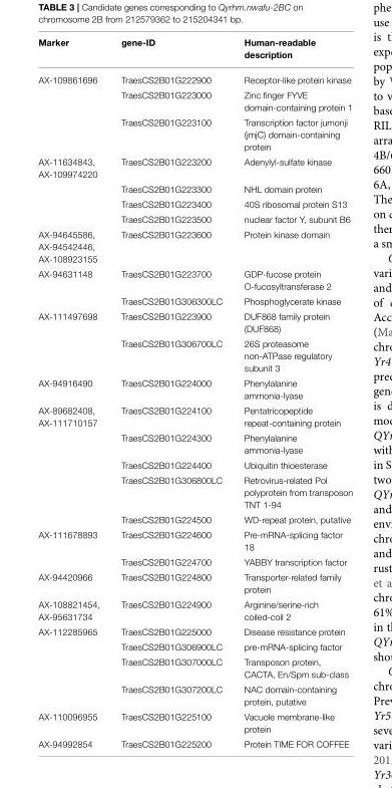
<table><thead><tr><td>Marker</td><td>gene-ID</td><td>Human-readable description</td></tr></thead><tbody><tr><td rowspan="3">AX-109861696</td><td>TraesCS2B01G222900</td><td>Receptor-like protein kinase</td></tr><tr><td>TraesCS2B01G223000</td><td>Zinc finger FYVE domain-containing protein 1</td></tr><tr><td>TraesCS2B01G223100</td><td>Transcription factor jumonji (jmjC) domain-containing protein</td></tr><tr><td rowspan="4">AX-11634843, AX-109974220</td><td>TraesCS2B01G223200</td><td>Adenylyl-sulfate kinase</td></tr><tr><td>TraesCS2B01G223300</td><td>NHL domain protein</td></tr><tr><td>TraesCS2B01G223400</td><td>40S ribosomal protein S13</td></tr><tr><td>TraesCS2B01G223500</td><td>nuclear factor Y, subunit B6</td></tr><tr><td>AX-94645586, AX-94542446, AX-108923155</td><td>TraesCS2B01G223600</td><td>Protein kinase domain</td></tr><tr><td rowspan="2">AX-94631148</td><td>TraesCS2B01G223700</td><td>GDP-fucose protein O-fucosyltransferase 2</td></tr><tr><td>TraesCS2B01G306300LC</td><td>Phosphoglycerate kinase</td></tr><tr><td rowspan="2">AX-111497698</td><td>TraesCS2B01G223900</td><td>DUF868 family protein (DUF868)</td></tr><tr><td>TraesCS2B01G306700LC</td><td>26S proteasome non-ATPase regulatory subunit 3</td></tr><tr><td>AX-94916490</td><td>TraesCS2B01G224000</td><td>Phenylalanine ammonia-lyase</td></tr><tr><td rowspan="5">AX-89682408, AX-111710157</td><td>TraesCS2B01G224100</td><td>Pentatricopeptide repeat-containing protein</td></tr><tr><td>TraesCS2B01G224300</td><td>Phenylalanine ammonia-lyase</td></tr><tr><td>TraesCS2B01G224400</td><td>Ubiquitin thioesterase</td></tr><tr><td>TraesCS2B01G306800LC</td><td>Retrovirus-related Pol polyprotein from transposon TNT 1-94</td></tr><tr><td>TraesCS2B01G224500</td><td>WD-repeat protein, putative</td></tr><tr><td rowspan="2">AX-111678893</td><td>TraesCS2B01G224600</td><td>Pre-mRNA-splicing factor 18</td></tr><tr><td>TraesCS2B01G224700</td><td>YABBY transcription factor</td></tr><tr><td>AX-94420966</td><td>TraesCS2B01G224800</td><td>Transporter-related family protein</td></tr><tr><td>AX-108821454, AX-95631734</td><td>TraesCS2B01G224900</td><td>Arginine/serine-rich coiled-coil 2</td></tr><tr><td rowspan="4">AX-112285965</td><td>TraesCS2B01G225000</td><td>Disease resistance protein</td></tr><tr><td>TraesCS2B01G306900LC</td><td>pre-mRNA-splicing factor</td></tr><tr><td>TraesCS2B01G307000LC</td><td>Transposon protein, CACTA, En/Spm sub-class</td></tr><tr><td>TraesCS2B01G307200LC</td><td>NAC domain-containing protein, putative</td></tr><tr><td>AX-110096955</td><td>TraesCS2B01G225100</td><td>Vacuole membrane-like protein</td></tr><tr><td>AX-94992854</td><td>TraesCS2B01G225200</td><td>Protein TIME FOR COFFEE</td></tr></tbody></table>